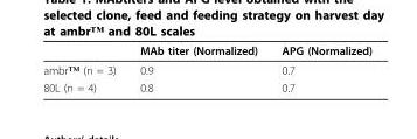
<table><thead><tr><td></td><td>MAb titer (Normalized)</td><td>APG (Normalized)</td></tr></thead><tbody><tr><td>ambr™ (n = 3)</td><td>0.9</td><td>0.7</td></tr><tr><td>80L (n = 4)</td><td>0.8</td><td>0.7</td></tr></tbody></table>